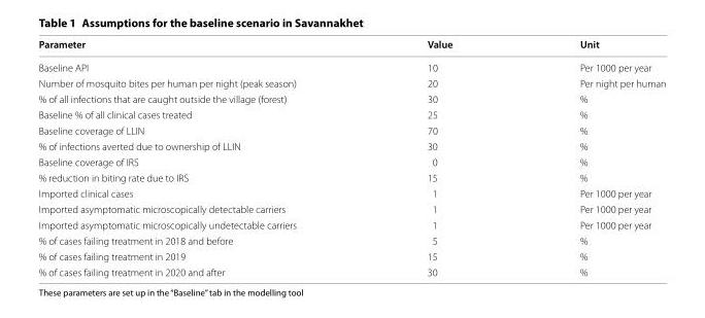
<table><thead><tr><td>Parameter</td><td>Value</td><td>Unit</td></tr></thead><tbody><tr><td>Baseline API</td><td>10</td><td>Per 1000 per year</td></tr><tr><td>Number of mosquito bites per human per night (peak season)</td><td>20</td><td>Per night per human</td></tr><tr><td>% of all infections that are caught outside the village (forest)</td><td>30</td><td>%</td></tr><tr><td>Baseline % of all clinical cases treated</td><td>25</td><td>%</td></tr><tr><td>Baseline coverage of LLIN</td><td>70</td><td>%</td></tr><tr><td>% of infections averted due to ownership of LLIN</td><td>30</td><td>%</td></tr><tr><td>Baseline coverage of IRS</td><td>0</td><td>%</td></tr><tr><td>% reduction in biting rate due to IRS</td><td>15</td><td>%</td></tr><tr><td>Imported clinical cases</td><td>1</td><td>Per 1000 per year</td></tr><tr><td>Imported asymptomatic microscopically detectable carriers</td><td>1</td><td>Per 1000 per year</td></tr><tr><td>Imported asymptomatic microscopically undetectable carriers</td><td>1</td><td>Per 1000 per year</td></tr><tr><td>% of cases failing treatment in 2018 and before</td><td>5</td><td>%</td></tr><tr><td>% of cases failing treatment in 2019</td><td>15</td><td>%</td></tr><tr><td>% of cases failing treatment in 2020 and after</td><td>30</td><td>%</td></tr></tbody></table>